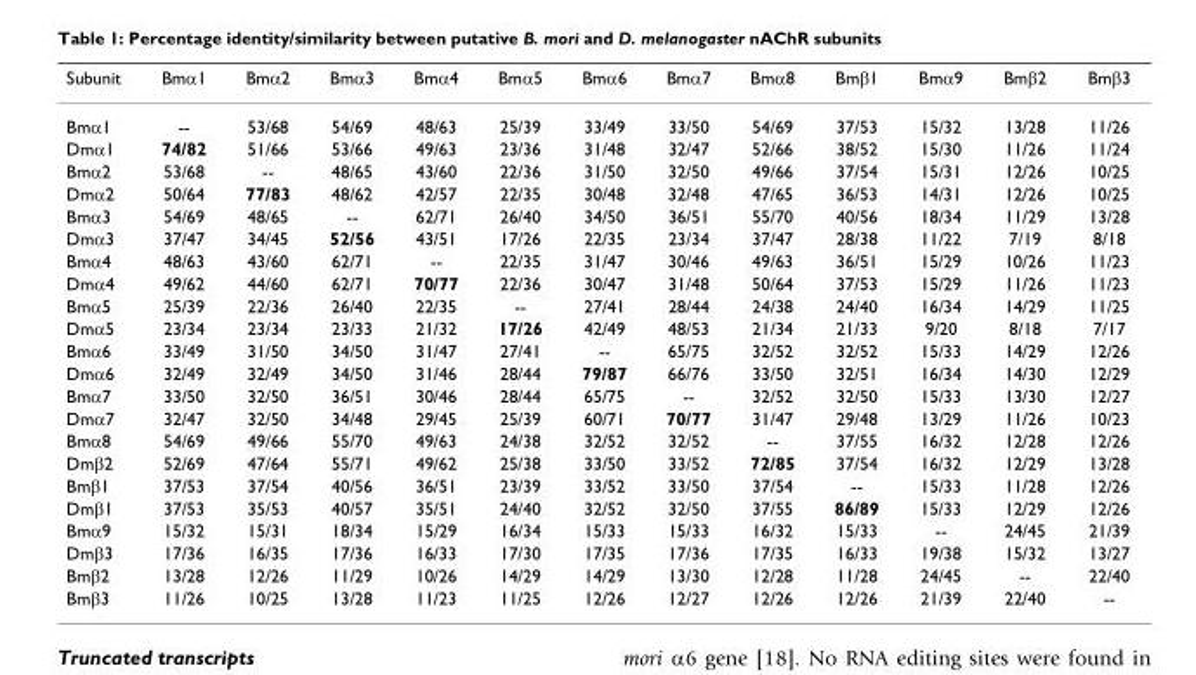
<table><thead><tr><td>Subunit</td><td>Bmα1</td><td>Bmα2</td><td>Bmα3</td><td>Bmα4</td><td>Bmα5</td><td>Bmα6</td><td>Bmα7</td><td>Bmα8</td><td>Bmβ1</td><td>Bmα9</td><td>Bmβ2</td><td>Bmβ3</td></tr></thead><tbody><tr><td>Bmα1</td><td>--</td><td>53/68</td><td>54/69</td><td>48/63</td><td>25/39</td><td>33/49</td><td>33/50</td><td>54/69</td><td>37/53</td><td>15/32</td><td>13/28</td><td>11/26</td></tr><tr><td>Dmα1</td><td>74/82</td><td>51/66</td><td>53/66</td><td>49/63</td><td>23/36</td><td>31/48</td><td>32/47</td><td>52/66</td><td>38/52</td><td>15/30</td><td>11/26</td><td>11/24</td></tr><tr><td>Bmα2</td><td>53/68</td><td>--</td><td>48/65</td><td>43/60</td><td>22/36</td><td>31/50</td><td>32/50</td><td>49/66</td><td>37/54</td><td>15/31</td><td>12/26</td><td>10/25</td></tr><tr><td>Dmα2</td><td>50/64</td><td>77/83</td><td>48/62</td><td>42/57</td><td>22/35</td><td>30/48</td><td>32/48</td><td>47/65</td><td>36/53</td><td>14/31</td><td>12/26</td><td>10/25</td></tr><tr><td>Bmα3</td><td>54/69</td><td>48/65</td><td>--</td><td>62/71</td><td>26/40</td><td>34/50</td><td>36/51</td><td>55/70</td><td>40/56</td><td>18/34</td><td>11/29</td><td>13/28</td></tr><tr><td>Dmα3</td><td>37/47</td><td>34/45</td><td>52/56</td><td>43/51</td><td>17/26</td><td>22/35</td><td>23/34</td><td>37/47</td><td>28/38</td><td>11/22</td><td>7/19</td><td>8/18</td></tr><tr><td>Bmα4</td><td>48/63</td><td>43/60</td><td>62/71</td><td>--</td><td>22/35</td><td>31/47</td><td>30/46</td><td>49/63</td><td>36/51</td><td>15/29</td><td>10/26</td><td>11/23</td></tr><tr><td>Dmα4</td><td>49/62</td><td>44/60</td><td>62/71</td><td>70/77</td><td>22/36</td><td>30/47</td><td>31/48</td><td>50/64</td><td>37/53</td><td>15/29</td><td>11/26</td><td>11/23</td></tr><tr><td>Bmα5</td><td>25/39</td><td>22/36</td><td>26/40</td><td>22/35</td><td>--</td><td>27/41</td><td>28/44</td><td>24/38</td><td>24/40</td><td>16/34</td><td>14/29</td><td>11/25</td></tr><tr><td>Dmα5</td><td>23/34</td><td>23/34</td><td>23/33</td><td>21/32</td><td>17/26</td><td>42/49</td><td>48/53</td><td>21/34</td><td>21/33</td><td>9/20</td><td>8/18</td><td>7/17</td></tr><tr><td>Bmα6</td><td>33/49</td><td>31/50</td><td>34/50</td><td>31/47</td><td>27/41</td><td>--</td><td>65/75</td><td>32/52</td><td>32/52</td><td>15/33</td><td>14/29</td><td>12/26</td></tr><tr><td>Dmα6</td><td>32/49</td><td>32/49</td><td>34/50</td><td>31/46</td><td>28/44</td><td>79/87</td><td>66/76</td><td>33/50</td><td>32/51</td><td>16/34</td><td>14/30</td><td>12/29</td></tr><tr><td>Bmα7</td><td>33/50</td><td>32/50</td><td>36/51</td><td>30/46</td><td>28/44</td><td>65/75</td><td>--</td><td>32/52</td><td>32/50</td><td>15/33</td><td>13/30</td><td>12/27</td></tr><tr><td>Dmα7</td><td>32/47</td><td>32/50</td><td>34/48</td><td>29/45</td><td>25/39</td><td>60/71</td><td>70/77</td><td>31/47</td><td>29/48</td><td>13/29</td><td>11/26</td><td>10/23</td></tr><tr><td>Bmα8</td><td>54/69</td><td>49/66</td><td>55/70</td><td>49/63</td><td>24/38</td><td>32/52</td><td>32/52</td><td>--</td><td>37/55</td><td>16/32</td><td>12/28</td><td>12/26</td></tr><tr><td>Dmβ2</td><td>52/69</td><td>47/64</td><td>55/71</td><td>49/62</td><td>25/38</td><td>33/50</td><td>33/52</td><td>72/85</td><td>37/54</td><td>16/32</td><td>12/29</td><td>13/28</td></tr><tr><td>Bmβ1</td><td>37/53</td><td>37/54</td><td>40/56</td><td>36/51</td><td>23/39</td><td>33/52</td><td>33/50</td><td>37/54</td><td>--</td><td>15/33</td><td>11/28</td><td>12/26</td></tr><tr><td>Dmβ1</td><td>37/53</td><td>35/53</td><td>40/57</td><td>35/51</td><td>24/40</td><td>32/52</td><td>32/50</td><td>37/55</td><td>86/89</td><td>15/33</td><td>12/29</td><td>12/26</td></tr><tr><td>Bmα9</td><td>15/32</td><td>15/31</td><td>18/34</td><td>15/29</td><td>16/34</td><td>15/33</td><td>15/33</td><td>16/32</td><td>15/33</td><td>--</td><td>24/45</td><td>21/39</td></tr><tr><td>Dmβ3</td><td>17/36</td><td>16/35</td><td>17/36</td><td>16/33</td><td>17/30</td><td>17/35</td><td>17/36</td><td>17/35</td><td>16/33</td><td>19/38</td><td>15/32</td><td>13/27</td></tr><tr><td>Bmβ2</td><td>13/28</td><td>12/26</td><td>11/29</td><td>10/26</td><td>14/29</td><td>14/29</td><td>13/30</td><td>12/28</td><td>11/28</td><td>24/45</td><td>--</td><td>22/40</td></tr><tr><td>Bmβ3</td><td>11/26</td><td>10/25</td><td>13/28</td><td>11/23</td><td>11/25</td><td>12/26</td><td>12/27</td><td>12/26</td><td>12/26</td><td>21/39</td><td>22/40</td><td>--</td></tr></tbody></table>